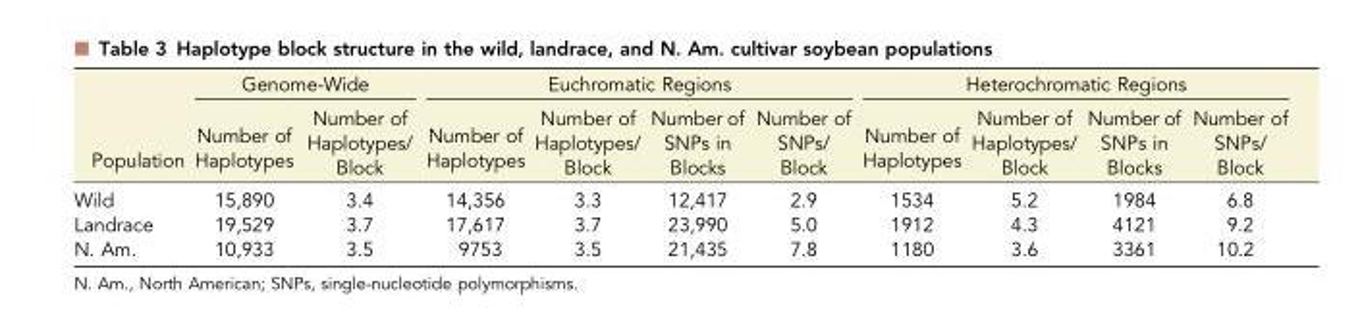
<table><thead><tr><td rowspan="2">Population</td><td colspan="2">Genome-Wide</td><td colspan="4">Euchromatic Regions</td><td colspan="4">Heterochromatic Regions</td></tr><tr><td>Number of Haplotypes</td><td>Number of Haplotypes/ Block</td><td>Number of Haplotypes</td><td>Number of Haplotypes/ Block</td><td>Number of SNPs in Blocks</td><td>Number of SNPs/ Block</td><td>Number of Haplotypes</td><td>Number of Haplotypes/ Block</td><td>Number of SNPs in Blocks</td><td>Number of SNPs/ Block</td></tr></thead><tbody><tr><td>Wild</td><td>15,890</td><td>3.4</td><td>14,356</td><td>3.3</td><td>12,417</td><td>2.9</td><td>1534</td><td>5.2</td><td>1984</td><td>6.8</td></tr><tr><td>Landrace</td><td>19,529</td><td>3.7</td><td>17,617</td><td>3.7</td><td>23,990</td><td>5.0</td><td>1912</td><td>4.3</td><td>4121</td><td>9.2</td></tr><tr><td>N. Am.</td><td>10,933</td><td>3.5</td><td>9753</td><td>3.5</td><td>21,435</td><td>7.8</td><td>1180</td><td>3.6</td><td>3361</td><td>10.2</td></tr></tbody></table>